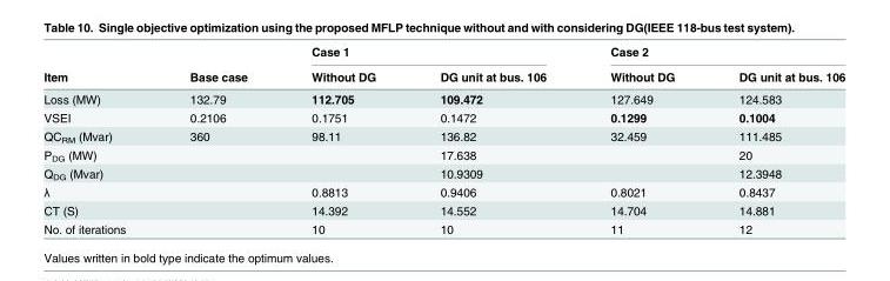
<table><thead><tr><td rowspan="2">Item</td><td rowspan="2">Base case</td><td colspan="2">Case 1</td><td colspan="2">Case 2</td></tr><tr><td>Without DG</td><td>DG unit at bus. 106</td><td>Without DG</td><td>DG unit at bus. 106</td></tr></thead><tbody><tr><td>Loss (MW)</td><td>132.79</td><td>112.705</td><td>109.472</td><td>127.649</td><td>124.583</td></tr><tr><td>VSEI</td><td>0.2106</td><td>0.1751</td><td>0.1472</td><td>0.1299</td><td>0.1004</td></tr><tr><td>QC<sub>RM</sub> (Mvar)</td><td>360</td><td>98.11</td><td>136.82</td><td>32.459</td><td>111.485</td></tr><tr><td>P<sub>DG</sub> (MW)</td><td></td><td></td><td>17.638</td><td></td><td>20</td></tr><tr><td>Q<sub>DG</sub> (Mvar)</td><td></td><td></td><td>10.9309</td><td></td><td>12.3948</td></tr><tr><td>λ</td><td></td><td>0.8813</td><td>0.9406</td><td>0.8021</td><td>0.8437</td></tr><tr><td>CT (S)</td><td></td><td>14.392</td><td>14.552</td><td>14.704</td><td>14.881</td></tr><tr><td>No. of iterations</td><td></td><td>10</td><td>10</td><td>11</td><td>12</td></tr></tbody></table>